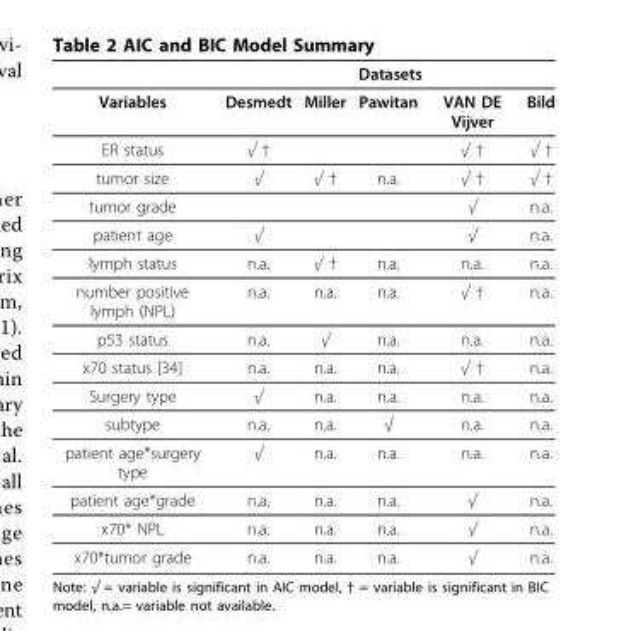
<table><thead><tr><td rowspan="2">Variables</td><td colspan="5">Datasets</td></tr><tr><td>Desmedt</td><td>Miller</td><td>Pawitan</td><td>VAN DE Vijver</td><td>Bild</td></tr></thead><tbody><tr><td>ER status</td><td>√ †</td><td></td><td></td><td>√ †</td><td>√ †</td></tr><tr><td>tumor size</td><td>√</td><td>√ †</td><td>n.a.</td><td>√ †</td><td>√ †</td></tr><tr><td>tumor grade</td><td></td><td></td><td></td><td>√</td><td>n.a.</td></tr><tr><td>patient age</td><td>√</td><td></td><td></td><td>√</td><td>n.a.</td></tr><tr><td>lymph status</td><td>n.a.</td><td>√ †</td><td>n.a.</td><td>n.a.</td><td>n.a.</td></tr><tr><td>number positive lymph (NPL)</td><td>n.a.</td><td>n.a.</td><td>n.a.</td><td>√ †</td><td>n.a.</td></tr><tr><td>p53 status</td><td>n.a.</td><td>√</td><td>n.a.</td><td>n.a.</td><td>n.a.</td></tr><tr><td>x70 status [34]</td><td>n.a.</td><td>n.a.</td><td>n.a.</td><td>√ †</td><td>n.a.</td></tr><tr><td>Surgery type</td><td>√</td><td>n.a.</td><td>n.a.</td><td>n.a.</td><td>n.a.</td></tr><tr><td>subtype</td><td>n.a.</td><td>n.a.</td><td>√</td><td>n.a.</td><td>n.a.</td></tr><tr><td>patient age*surgery type</td><td>√</td><td>n.a.</td><td>n.a.</td><td>n.a.</td><td>n.a.</td></tr><tr><td>patient age*grade</td><td>n.a.</td><td>n.a.</td><td>n.a.</td><td>√</td><td>n.a.</td></tr><tr><td>x70* NPL</td><td>n.a.</td><td>n.a.</td><td>n.a.</td><td>√</td><td>n.a.</td></tr><tr><td>x70*tumor grade</td><td>n.a.</td><td>n.a.</td><td>n.a.</td><td>√</td><td>n.a.</td></tr></tbody></table>